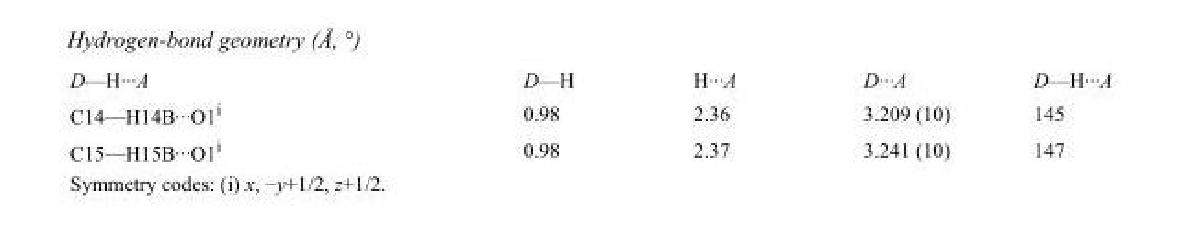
<table><tbody><tr><td>D—H···A</td><td>D—H</td><td>H···A</td><td>D···A</td><td>D—H···A</td></tr><tr><td>C14—H14B···O1<sup>i</sup></td><td>0.98</td><td>2.36</td><td>3.209 (10)</td><td>145</td></tr><tr><td>C15—H15B···O1<sup>i</sup></td><td>0.98</td><td>2.37</td><td>3.241 (10)</td><td>147</td></tr></tbody></table>